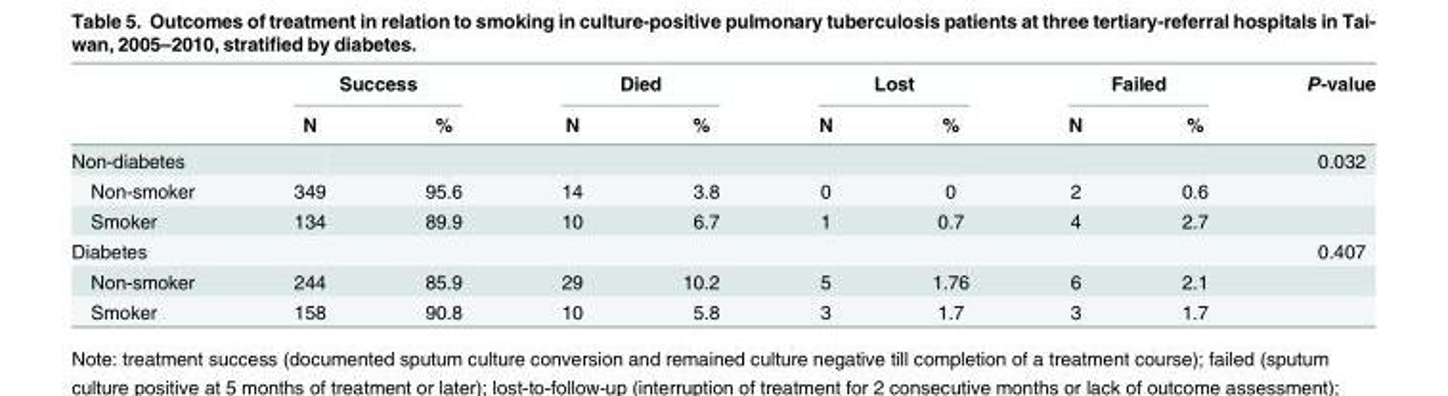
<table><thead><tr><td rowspan="2"></td><td colspan="2">Success</td><td colspan="2">Died</td><td colspan="2">Lost</td><td colspan="2">Failed</td><td rowspan="2">P-value</td></tr><tr><td>N</td><td>%</td><td>N</td><td>%</td><td>N</td><td>%</td><td>N</td><td>%</td></tr></thead><tbody><tr><td>Non-diabetes</td><td></td><td></td><td></td><td></td><td></td><td></td><td></td><td></td><td>0.032</td></tr><tr><td>Non-smoker</td><td>349</td><td>95.6</td><td>14</td><td>3.8</td><td>0</td><td>0</td><td>2</td><td>0.6</td><td></td></tr><tr><td>Smoker</td><td>134</td><td>89.9</td><td>10</td><td>6.7</td><td>1</td><td>0.7</td><td>4</td><td>2.7</td><td></td></tr><tr><td>Diabetes</td><td></td><td></td><td></td><td></td><td></td><td></td><td></td><td></td><td>0.407</td></tr><tr><td>Non-smoker</td><td>244</td><td>85.9</td><td>29</td><td>10.2</td><td>5</td><td>1.76</td><td>6</td><td>2.1</td><td></td></tr><tr><td>Smoker</td><td>158</td><td>90.8</td><td>10</td><td>5.8</td><td>3</td><td>1.7</td><td>3</td><td>1.7</td><td></td></tr></tbody></table>